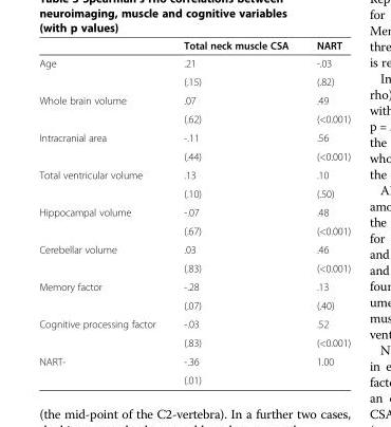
<table><thead><tr><td></td><td>Total neck muscle CSA</td><td>NART</td></tr></thead><tbody><tr><td rowspan="2">Age</td><td>.21</td><td>-.03</td></tr><tr><td>(.15)</td><td>(.82)</td></tr><tr><td rowspan="2">Whole brain volume</td><td>.07</td><td>.49</td></tr><tr><td>(.62)</td><td>(&lt;0.001)</td></tr><tr><td rowspan="2">Intracranial area</td><td>-.11</td><td>.56</td></tr><tr><td>(.44)</td><td>(&lt;0.001)</td></tr><tr><td rowspan="2">Total ventricular volume</td><td>.13</td><td>.10</td></tr><tr><td>(.10)</td><td>(.50)</td></tr><tr><td rowspan="2">Hippocampal volume</td><td>-.07</td><td>.48</td></tr><tr><td>(.67)</td><td>(&lt;0.001)</td></tr><tr><td rowspan="2">Cerebellar volume</td><td>.03</td><td>.46</td></tr><tr><td>(.83)</td><td>(&lt;0.001)</td></tr><tr><td rowspan="2">Memory factor</td><td>-.28</td><td>.13</td></tr><tr><td>(.07)</td><td>(.40)</td></tr><tr><td rowspan="2">Cognitive processing factor</td><td>-.03</td><td>.52</td></tr><tr><td>(.83)</td><td>(&lt;0.001)</td></tr><tr><td rowspan="2">NART-</td><td>-.36</td><td>1.00</td></tr><tr><td>(.01)</td><td></td></tr></tbody></table>